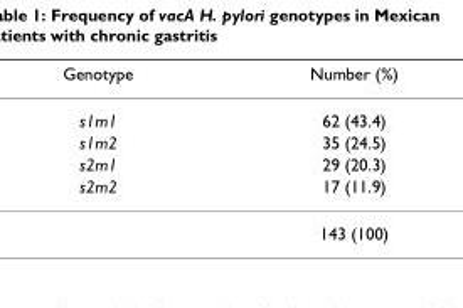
<table><thead><tr><td>Genotype</td><td>Number (%)</td></tr></thead><tbody><tr><td>s1m1</td><td>62 (43.4)</td></tr><tr><td>s1m2</td><td>35 (24.5)</td></tr><tr><td>s2m1</td><td>29 (20.3)</td></tr><tr><td rowspan="2">s2m2</td><td>17 (11.9)</td></tr><tr><td>143 (100)</td></tr></tbody></table>